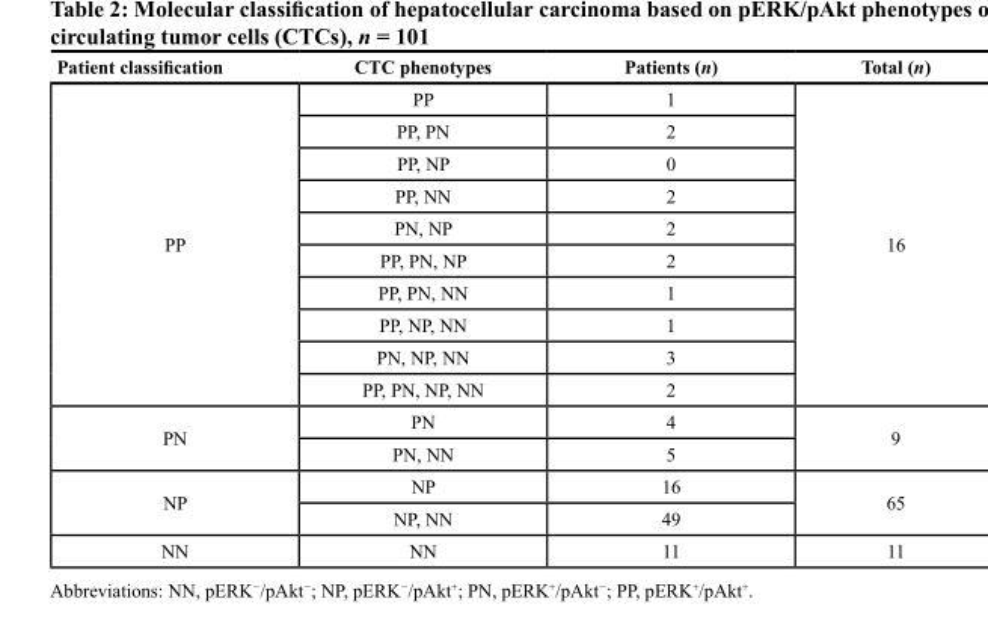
<table><thead><tr><td>Patient classification</td><td>CTC phenotypes</td><td>Patients (n)</td><td>Total (n)</td></tr></thead><tbody><tr><td rowspan="10">PP</td><td>PP</td><td>1</td><td rowspan="10">16</td></tr><tr><td>PP, PN</td><td>2</td></tr><tr><td>PP, NP</td><td>0</td></tr><tr><td>PP, NN</td><td>2</td></tr><tr><td>PN, NP</td><td>2</td></tr><tr><td>PP, PN, NP</td><td>2</td></tr><tr><td>PP, PN, NN</td><td>1</td></tr><tr><td>PP, NP, NN</td><td>1</td></tr><tr><td>PN, NP, NN</td><td>3</td></tr><tr><td>PP, PN, NP, NN</td><td>2</td></tr><tr><td rowspan="2">PN</td><td>PN</td><td>4</td><td rowspan="2">9</td></tr><tr><td>PN, NN</td><td>5</td></tr><tr><td rowspan="2">NP</td><td>NP</td><td>16</td><td rowspan="2">65</td></tr><tr><td>NP, NN</td><td>49</td></tr><tr><td>NN</td><td>NN</td><td>11</td><td>11</td></tr></tbody></table>